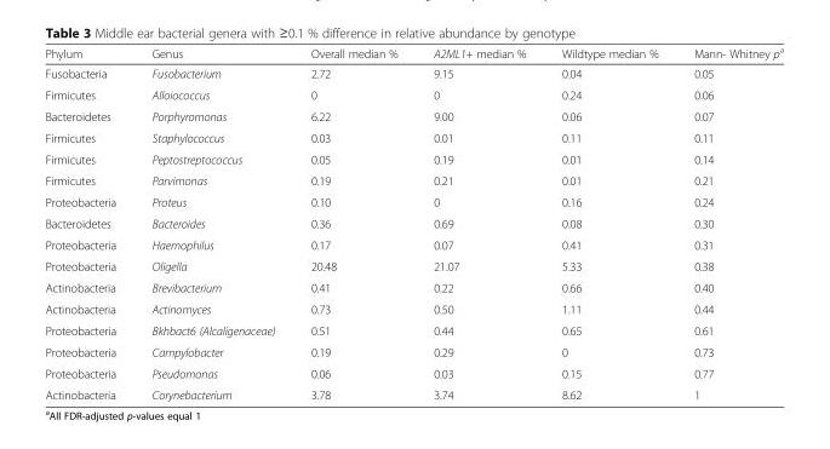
<table><thead><tr><td>Phylum</td><td>Genus</td><td>Overall median %</td><td>A2ML1+ median %</td><td>Wildtype median %</td><td>Mann- Whitney p<sup>a</sup></td></tr></thead><tbody><tr><td>Fusobacteria</td><td>Fusobacterium</td><td>2.72</td><td>9.15</td><td>0.04</td><td>0.05</td></tr><tr><td>Firmicutes</td><td>Alloiococcus</td><td>0</td><td>0</td><td>0.24</td><td>0.06</td></tr><tr><td>Bacteroidetes</td><td>Porphyromonas</td><td>6.22</td><td>9.00</td><td>0.06</td><td>0.07</td></tr><tr><td>Firmicutes</td><td>Staphylococcus</td><td>0.03</td><td>0.01</td><td>0.11</td><td>0.11</td></tr><tr><td>Firmicutes</td><td>Peptostreptococcus</td><td>0.05</td><td>0.19</td><td>0.01</td><td>0.14</td></tr><tr><td>Firmicutes</td><td>Parvimonas</td><td>0.19</td><td>0.21</td><td>0.01</td><td>0.21</td></tr><tr><td>Proteobacteria</td><td>Proteus</td><td>0.10</td><td>0</td><td>0.16</td><td>0.24</td></tr><tr><td>Bacteroidetes</td><td>Bacteroides</td><td>0.36</td><td>0.69</td><td>0.08</td><td>0.30</td></tr><tr><td>Proteobacteria</td><td>Haemophilus</td><td>0.17</td><td>0.07</td><td>0.41</td><td>0.31</td></tr><tr><td>Proteobacteria</td><td>Oligella</td><td>20.48</td><td>21.07</td><td>5.33</td><td>0.38</td></tr><tr><td>Actinobacteria</td><td>Brevibacterium</td><td>0.41</td><td>0.22</td><td>0.66</td><td>0.40</td></tr><tr><td>Actinobacteria</td><td>Actinomyces</td><td>0.73</td><td>0.50</td><td>1.11</td><td>0.44</td></tr><tr><td>Proteobacteria</td><td>Bkhbact6 (Alcaligenaceae)</td><td>0.51</td><td>0.44</td><td>0.65</td><td>0.61</td></tr><tr><td>Proteobacteria</td><td>Campylobacter</td><td>0.19</td><td>0.29</td><td>0</td><td>0.73</td></tr><tr><td>Proteobacteria</td><td>Pseudomonas</td><td>0.06</td><td>0.03</td><td>0.15</td><td>0.77</td></tr><tr><td>Actinobacteria</td><td>Corynebacterium</td><td>3.78</td><td>3.74</td><td>8.62</td><td>1</td></tr></tbody></table>